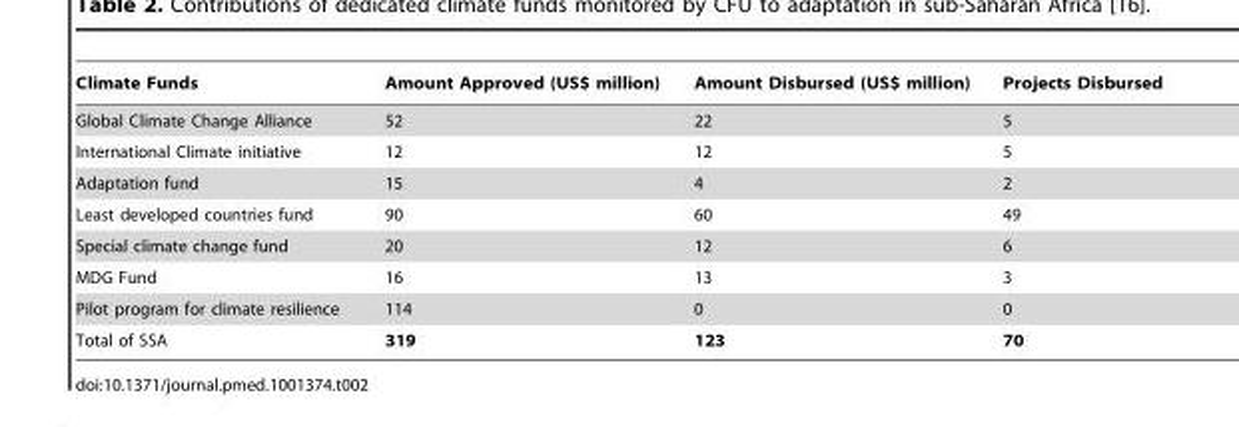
<table><thead><tr><td>Climate Funds</td><td>Amount Approved (US$ million)</td><td>Amount Disbursed (US$ million)</td><td>Projects Disbursed</td></tr></thead><tbody><tr><td>Global Climate Change Alliance</td><td>52</td><td>22</td><td>5</td></tr><tr><td>International Climate initiative</td><td>12</td><td>12</td><td>5</td></tr><tr><td>Adaptation fund</td><td>15</td><td>4</td><td>2</td></tr><tr><td>Least developed countries fund</td><td>90</td><td>60</td><td>49</td></tr><tr><td>Special climate change fund</td><td>20</td><td>12</td><td>6</td></tr><tr><td>MDG Fund</td><td>16</td><td>13</td><td>3</td></tr><tr><td>Pilot program for climate resilience</td><td>114</td><td>0</td><td>0</td></tr><tr><td>Total of SSA</td><td>319</td><td>123</td><td>70</td></tr></tbody></table>